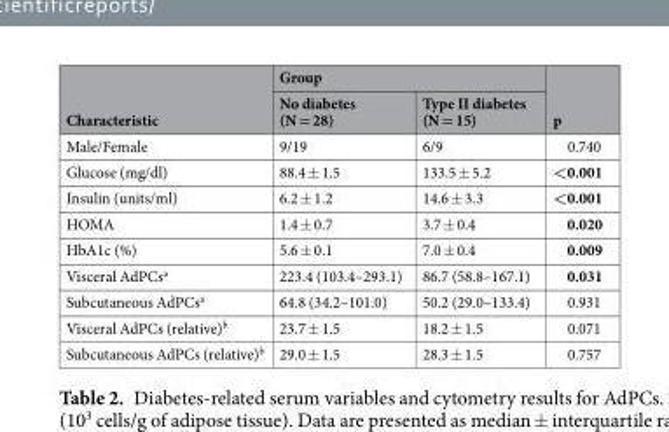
<table><thead><tr><td rowspan="2">Characteristic</td><td colspan="2">Group</td><td rowspan="2">p</td></tr><tr><td>No diabetes (N = 28)</td><td>Type II diabetes (N = 15)</td></tr></thead><tbody><tr><td>Male/Female</td><td>9/19</td><td>6/9</td><td>0.740</td></tr><tr><td>Glucose (mg/dl)</td><td>88.4 ± 1.5</td><td>133.5 ± 5.2</td><td>&lt;0.001</td></tr><tr><td>Insulin (units/ml)</td><td>6.2 ± 1.2</td><td>14.6 ± 3.3</td><td>&lt;0.001</td></tr><tr><td>HOMA</td><td>1.4 ± 0.7</td><td>3.7 ± 0.4</td><td>0.020</td></tr><tr><td>HbA1c (%)</td><td>5.6 ± 0.1</td><td>7.0 ± 0.4</td><td>0.009</td></tr><tr><td>Visceral AdPCs<sup>a</sup></td><td>223.4 (103.4–293.1)</td><td>86.7 (58.8–167.1)</td><td>0.031</td></tr><tr><td>Subcutaneous AdPCs<sup>a</sup></td><td>64.8 (34.2–101.0)</td><td>50.2 (29.0–133.4)</td><td>0.931</td></tr><tr><td>Visceral AdPCs (relative)<sup>b</sup></td><td>23.7 ± 1.5</td><td>18.2 ± 1.5</td><td>0.071</td></tr><tr><td>Subcutaneous AdPCs (relative)<sup>b</sup></td><td>29.0 ± 1.5</td><td>28.3 ± 1.5</td><td>0.757</td></tr></tbody></table>